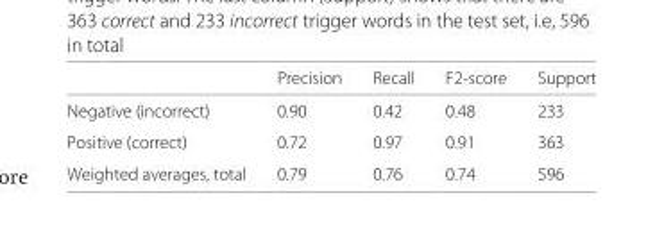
<table><thead><tr><td></td><td>Precision</td><td>Recall</td><td>F2-score</td><td>Support</td></tr></thead><tbody><tr><td>Negative (incorrect)</td><td>0.90</td><td>0.42</td><td>0.48</td><td>233</td></tr><tr><td>Positive (correct)</td><td>0.72</td><td>0.97</td><td>0.91</td><td>363</td></tr><tr><td>Weighted averages, total</td><td>0.79</td><td>0.76</td><td>0.74</td><td>596</td></tr></tbody></table>